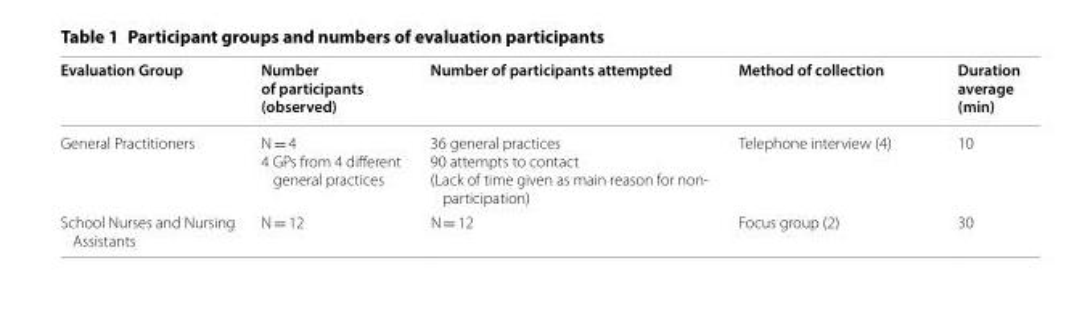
<table><thead><tr><td>Evaluation Group</td><td>Number of participants (observed)</td><td>Number of participants attempted</td><td>Method of collection</td><td>Duration average (min)</td></tr></thead><tbody><tr><td>General Practitioners</td><td>N = 4 4 GPs from 4 different general practices</td><td>36 general practices 90 attempts to contact (Lack of time given as main reason for non- participation)</td><td>Telephone interview (4)</td><td>10</td></tr><tr><td>School Nurses and Nursing Assistants</td><td>N = 12</td><td>N = 12</td><td>Focus group (2)</td><td>30</td></tr></tbody></table>